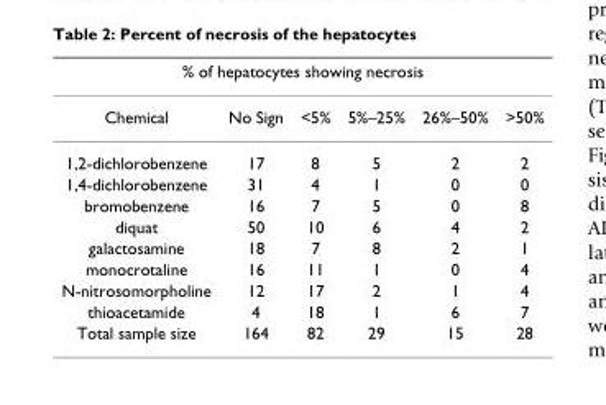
<table><thead><tr><td colspan="6">% of hepatocytes showing necrosis</td></tr><tr><td>Chemical</td><td>No Sign</td><td>&lt;5%</td><td>5%–25%</td><td>26%–50%</td><td>&gt;50%</td></tr></thead><tbody><tr><td>1,2-dichlorobenzene</td><td>17</td><td>8</td><td>5</td><td>2</td><td>2</td></tr><tr><td>1,4-dichlorobenzene</td><td>31</td><td>4</td><td>1</td><td>0</td><td>0</td></tr><tr><td>bromobenzene</td><td>16</td><td>7</td><td>5</td><td>0</td><td>8</td></tr><tr><td>diquat</td><td>50</td><td>10</td><td>6</td><td>4</td><td>2</td></tr><tr><td>galactosamine</td><td>18</td><td>7</td><td>8</td><td>2</td><td>1</td></tr><tr><td>monocrotaline</td><td>16</td><td>11</td><td>1</td><td>0</td><td>4</td></tr><tr><td>N-nitrosomorpholine</td><td>12</td><td>17</td><td>2</td><td>1</td><td>4</td></tr><tr><td>thioacetamide</td><td>4</td><td>18</td><td>1</td><td>6</td><td>7</td></tr><tr><td>Total sample size</td><td>164</td><td>82</td><td>29</td><td>15</td><td>28</td></tr></tbody></table>